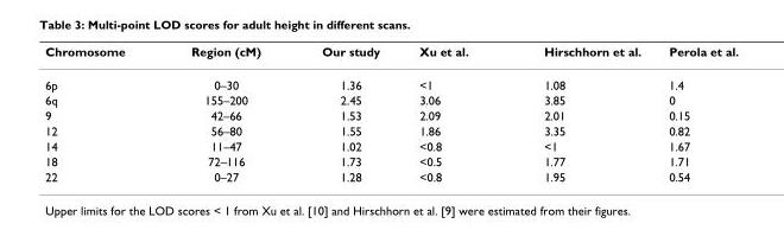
<table><thead><tr><td>Chromosome</td><td>Region (cM)</td><td>Our study</td><td>Xu et al.</td><td>Hirschhorn et al.</td><td>Perola et al.</td></tr></thead><tbody><tr><td>6p</td><td>0–30</td><td>1.36</td><td>&lt;1</td><td>1.08</td><td>1.4</td></tr><tr><td>6q</td><td>155–200</td><td>2.45</td><td>3.06</td><td>3.85</td><td>0</td></tr><tr><td>9</td><td>42–66</td><td>1.53</td><td>2.09</td><td>2.01</td><td>0.15</td></tr><tr><td>12</td><td>56–80</td><td>1.55</td><td>1.86</td><td>3.35</td><td>0.82</td></tr><tr><td>14</td><td>11–47</td><td>1.02</td><td>&lt;0.8</td><td>&lt;1</td><td>1.67</td></tr><tr><td>18</td><td>72–116</td><td>1.73</td><td>&lt;0.5</td><td>1.77</td><td>1.71</td></tr><tr><td>22</td><td>0–27</td><td>1.28</td><td>&lt;0.8</td><td>1.95</td><td>0.54</td></tr></tbody></table>